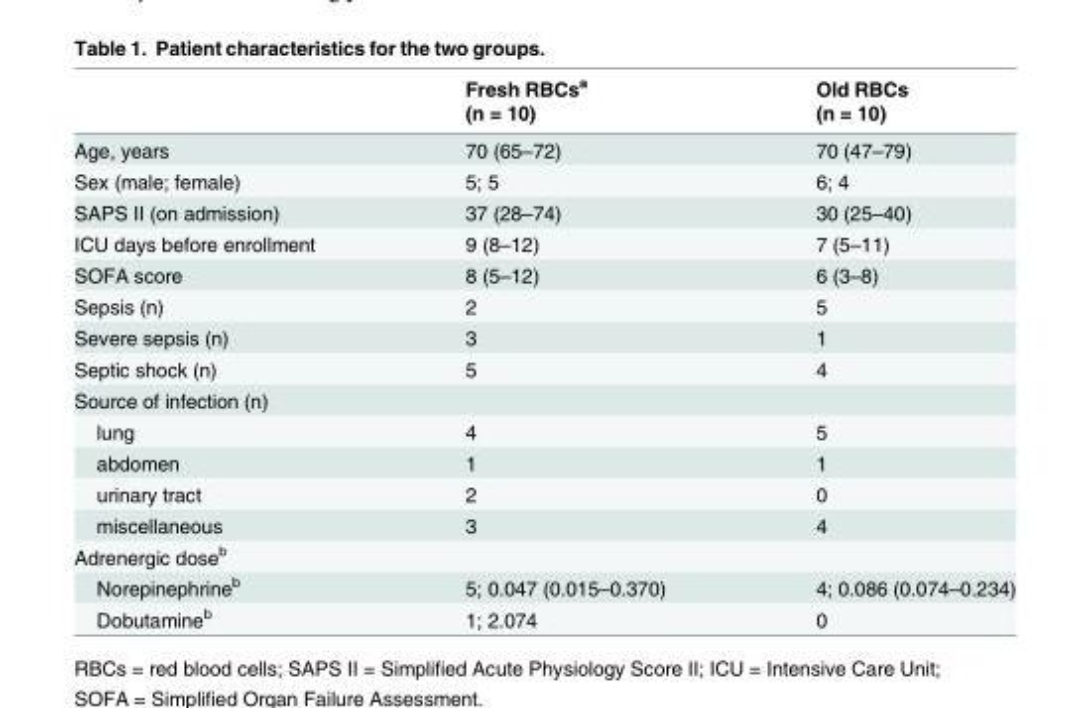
<table><thead><tr><td rowspan="2"></td><td rowspan="2">Fresh RBCs<sup>a</sup> (n = 10)</td><td rowspan="2">Old RBCs (n = 10)</td></tr><tr></tr></thead><tbody><tr><td>Age, years</td><td>70 (65–72)</td><td>70 (47–79)</td></tr><tr><td>Sex (male; female)</td><td>5; 5</td><td>6; 4</td></tr><tr><td>SAPS II (on admission)</td><td>37 (28–74)</td><td>30 (25–40)</td></tr><tr><td>ICU days before enrollment</td><td>9 (8–12)</td><td>7 (5–11)</td></tr><tr><td>SOFA score</td><td>8 (5–12)</td><td>6 (3–8)</td></tr><tr><td>Sepsis (n)</td><td>2</td><td>5</td></tr><tr><td>Severe sepsis (n)</td><td>3</td><td>1</td></tr><tr><td>Septic shock (n)</td><td>5</td><td>4</td></tr><tr><td colspan="3">Source of infection (n)</td></tr><tr><td>lung</td><td>4</td><td>5</td></tr><tr><td>abdomen</td><td>1</td><td>1</td></tr><tr><td>urinary tract</td><td>2</td><td>0</td></tr><tr><td>miscellaneous</td><td>3</td><td>4</td></tr><tr><td colspan="3">Adrenergic dose<sup>b</sup></td></tr><tr><td>Norepinephrine<sup>b</sup></td><td>5; 0.047 (0.015–0.370)</td><td>4; 0.086 (0.074–0.234)</td></tr><tr><td>Dobutamine<sup>b</sup></td><td>1; 2.074</td><td>0</td></tr></tbody></table>